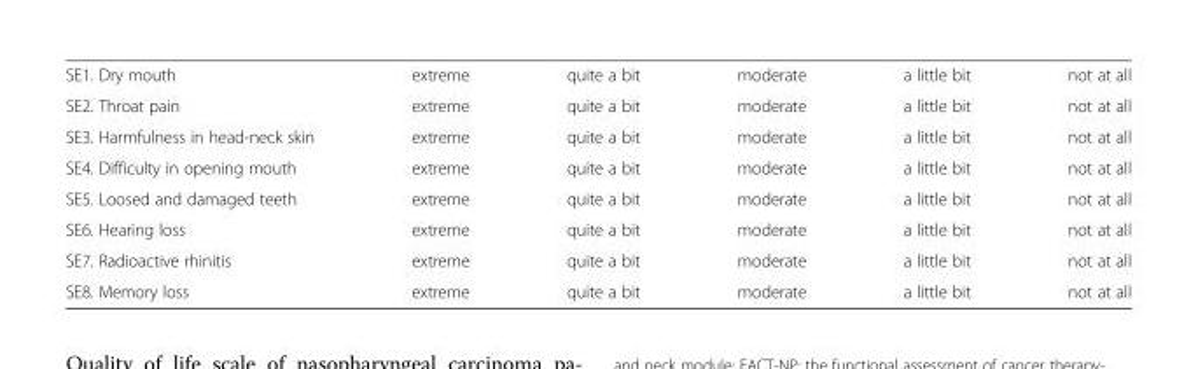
<table><tbody><tr><td>SE1. Dry mouth</td><td>extreme</td><td>quite a bit</td><td>moderate</td><td>a little bit</td><td>not at all</td></tr><tr><td>SE2. Throat pain</td><td>extreme</td><td>quite a bit</td><td>moderate</td><td>a little bit</td><td>not at all</td></tr><tr><td>SE3. Harmfulness in head-neck skin</td><td>extreme</td><td>quite a bit</td><td>moderate</td><td>a little bit</td><td>not at all</td></tr><tr><td>SE4. Difficulty in opening mouth</td><td>extreme</td><td>quite a bit</td><td>moderate</td><td>a little bit</td><td>not at all</td></tr><tr><td>SE5. Loosed and damaged teeth</td><td>extreme</td><td>quite a bit</td><td>moderate</td><td>a little bit</td><td>not at all</td></tr><tr><td>SE6. Hearing loss</td><td>extreme</td><td>quite a bit</td><td>moderate</td><td>a little bit</td><td>not at all</td></tr><tr><td>SE7. Radioactive rhinitis</td><td>extreme</td><td>quite a bit</td><td>moderate</td><td>a little bit</td><td>not at all</td></tr><tr><td>SE8. Memory loss</td><td>extreme</td><td>quite a bit</td><td>moderate</td><td>a little bit</td><td>not at all</td></tr></tbody></table>